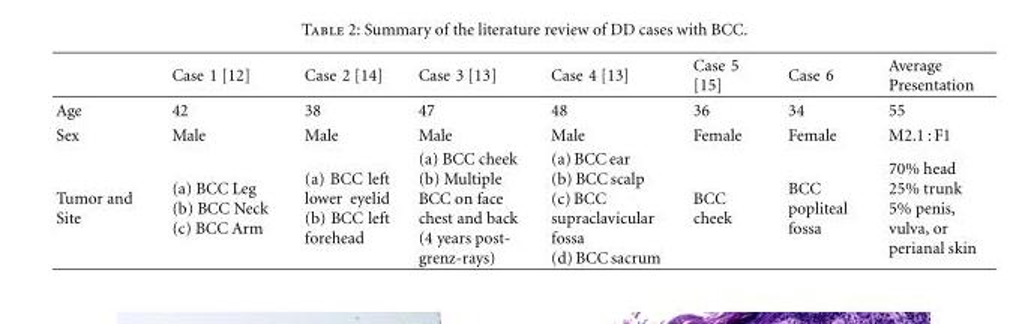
<table><thead><tr><td></td><td>Case 1 [12]</td><td>Case 2 [14]</td><td>Case 3 [13]</td><td>Case 4 [13]</td><td>Case 5 [15]</td><td>Case 6</td><td>Average Presentation</td></tr></thead><tbody><tr><td>Age</td><td>42</td><td>38</td><td>47</td><td>48</td><td>36</td><td>34</td><td>55</td></tr><tr><td>Sex</td><td>Male</td><td>Male</td><td>Male</td><td>Male</td><td>Female</td><td>Female</td><td>M2.1 : F1</td></tr><tr><td>Tumor and Site</td><td>(a) BCC Leg (b) BCC Neck (c) BCC Arm</td><td>(a) BCC left lower eyelid (b) BCC left forehead</td><td>(a) BCC cheek (b) Multiple BCC on face chest and back (4 years post- grenz-rays)</td><td>(a) BCC ear (b) BCC scalp (c) BCC supraclavicular fossa (d) BCC sacrum</td><td>BCC cheek</td><td>BCC popliteal fossa</td><td>70% head 25% trunk 5% penis, vulva, or perianal skin</td></tr></tbody></table>